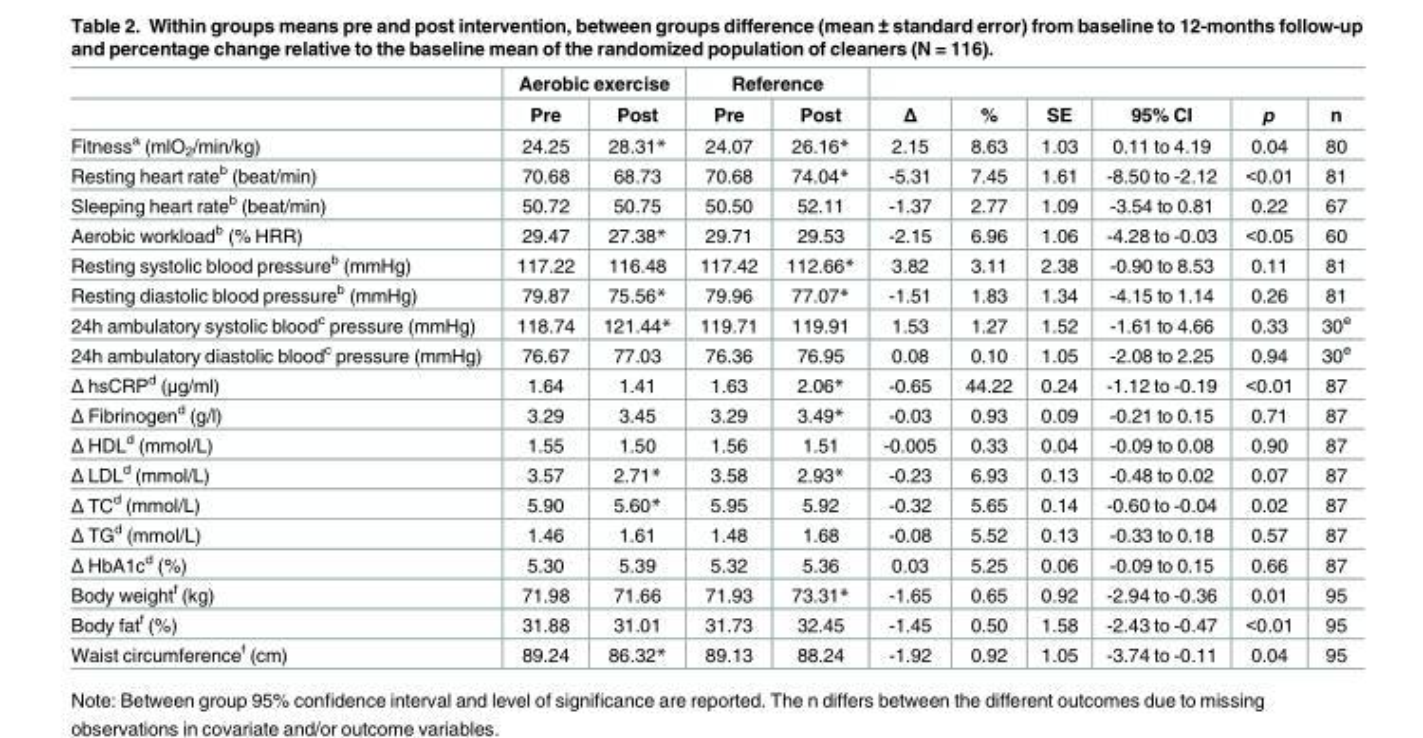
<table><thead><tr><td rowspan="2"></td><td colspan="2">Aerobic exercise</td><td colspan="2">Reference</td><td rowspan="2">Δ</td><td rowspan="2">%</td><td rowspan="2">SE</td><td rowspan="2">95% CI</td><td rowspan="2">p</td><td rowspan="2">n</td></tr><tr><td>Pre</td><td>Post</td><td>Pre</td><td>Post</td></tr></thead><tbody><tr><td>Fitness<sup>a</sup> (mlO<sub>2</sub>/min/kg)</td><td>24.25</td><td>28.31*</td><td>24.07</td><td>26.16*</td><td>2.15</td><td>8.63</td><td>1.03</td><td>0.11 to 4.19</td><td>0.04</td><td>80</td></tr><tr><td>Resting heart rate<sup>b</sup> (beat/min)</td><td>70.68</td><td>68.73</td><td>70.68</td><td>74.04*</td><td>-5.31</td><td>7.45</td><td>1.61</td><td>-8.50 to -2.12</td><td>&lt;0.01</td><td>81</td></tr><tr><td>Sleeping heart rate<sup>b</sup> (beat/min)</td><td>50.72</td><td>50.75</td><td>50.50</td><td>52.11</td><td>-1.37</td><td>2.77</td><td>1.09</td><td>-3.54 to 0.81</td><td>0.22</td><td>67</td></tr><tr><td>Aerobic workload<sup>b</sup> (% HRR)</td><td>29.47</td><td>27.38*</td><td>29.71</td><td>29.53</td><td>-2.15</td><td>6.96</td><td>1.06</td><td>-4.28 to -0.03</td><td>&lt;0.05</td><td>60</td></tr><tr><td>Resting systolic blood pressure<sup>b</sup> (mmHg)</td><td>117.22</td><td>116.48</td><td>117.42</td><td>112.66*</td><td>3.82</td><td>3.11</td><td>2.38</td><td>-0.90 to 8.53</td><td>0.11</td><td>81</td></tr><tr><td>Resting diastolic blood pressure<sup>b</sup> (mmHg)</td><td>79.87</td><td>75.56*</td><td>79.96</td><td>77.07*</td><td>-1.51</td><td>1.83</td><td>1.34</td><td>-4.15 to 1.14</td><td>0.26</td><td>81</td></tr><tr><td>24h ambulatory systolic blood<sup>c</sup> pressure (mmHg)</td><td>118.74</td><td>121.44*</td><td>119.71</td><td>119.91</td><td>1.53</td><td>1.27</td><td>1.52</td><td>-1.61 to 4.66</td><td>0.33</td><td>30<sup>e</sup></td></tr><tr><td>24h ambulatory diastolic blood<sup>c</sup> pressure (mmHg)</td><td>76.67</td><td>77.03</td><td>76.36</td><td>76.95</td><td>0.08</td><td>0.10</td><td>1.05</td><td>-2.08 to 2.25</td><td>0.94</td><td>30<sup>e</sup></td></tr><tr><td>Δ hsCRP<sup>d</sup> (μg/ml)</td><td>1.64</td><td>1.41</td><td>1.63</td><td>2.06*</td><td>-0.65</td><td>44.22</td><td>0.24</td><td>-1.12 to -0.19</td><td>&lt;0.01</td><td>87</td></tr><tr><td>Δ Fibrinogen<sup>d</sup> (g/l)</td><td>3.29</td><td>3.45</td><td>3.29</td><td>3.49*</td><td>-0.03</td><td>0.93</td><td>0.09</td><td>-0.21 to 0.15</td><td>0.71</td><td>87</td></tr><tr><td>Δ HDL<sup>d</sup> (mmol/L)</td><td>1.55</td><td>1.50</td><td>1.56</td><td>1.51</td><td>-0.005</td><td>0.33</td><td>0.04</td><td>-0.09 to 0.08</td><td>0.90</td><td>87</td></tr><tr><td>Δ LDL<sup>d</sup> (mmol/L)</td><td>3.57</td><td>2.71*</td><td>3.58</td><td>2.93*</td><td>-0.23</td><td>6.93</td><td>0.13</td><td>-0.48 to 0.02</td><td>0.07</td><td>87</td></tr><tr><td>Δ TC<sup>d</sup> (mmol/L)</td><td>5.90</td><td>5.60*</td><td>5.95</td><td>5.92</td><td>-0.32</td><td>5.65</td><td>0.14</td><td>-0.60 to -0.04</td><td>0.02</td><td>87</td></tr><tr><td>Δ TG<sup>d</sup> (mmol/L)</td><td>1.46</td><td>1.61</td><td>1.48</td><td>1.68</td><td>-0.08</td><td>5.52</td><td>0.13</td><td>-0.33 to 0.18</td><td>0.57</td><td>87</td></tr><tr><td>Δ HbA1c<sup>d</sup> (%)</td><td>5.30</td><td>5.39</td><td>5.32</td><td>5.36</td><td>0.03</td><td>5.25</td><td>0.06</td><td>-0.09 to 0.15</td><td>0.66</td><td>87</td></tr><tr><td>Body weight<sup>f</sup> (kg)</td><td>71.98</td><td>71.66</td><td>71.93</td><td>73.31*</td><td>-1.65</td><td>0.65</td><td>0.92</td><td>-2.94 to -0.36</td><td>0.01</td><td>95</td></tr><tr><td>Body fat<sup>f</sup> (%)</td><td>31.88</td><td>31.01</td><td>31.73</td><td>32.45</td><td>-1.45</td><td>0.50</td><td>1.58</td><td>-2.43 to -0.47</td><td>&lt;0.01</td><td>95</td></tr><tr><td>Waist circumference<sup>f</sup> (cm)</td><td>89.24</td><td>86.32*</td><td>89.13</td><td>88.24</td><td>-1.92</td><td>0.92</td><td>1.05</td><td>-3.74 to -0.11</td><td>0.04</td><td>95</td></tr></tbody></table>